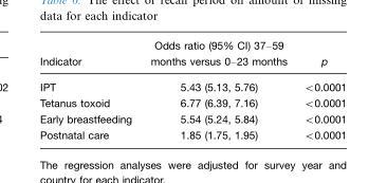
<table><thead><tr><td>Indicator</td><td>Odds ratio (95% CI) 37–59 months versus 0–23 months</td><td>p</td></tr></thead><tbody><tr><td>IPT</td><td>5.43 (5.13, 5.76)</td><td>&lt;0.0001</td></tr><tr><td>Tetanus toxoid</td><td>6.77 (6.39, 7.16)</td><td>&lt;0.0001</td></tr><tr><td>Early breastfeeding</td><td>5.54 (5.24, 5.84)</td><td>&lt;0.0001</td></tr><tr><td>Postnatal care</td><td>1.85 (1.75, 1.95)</td><td>&lt;0.0001</td></tr></tbody></table>